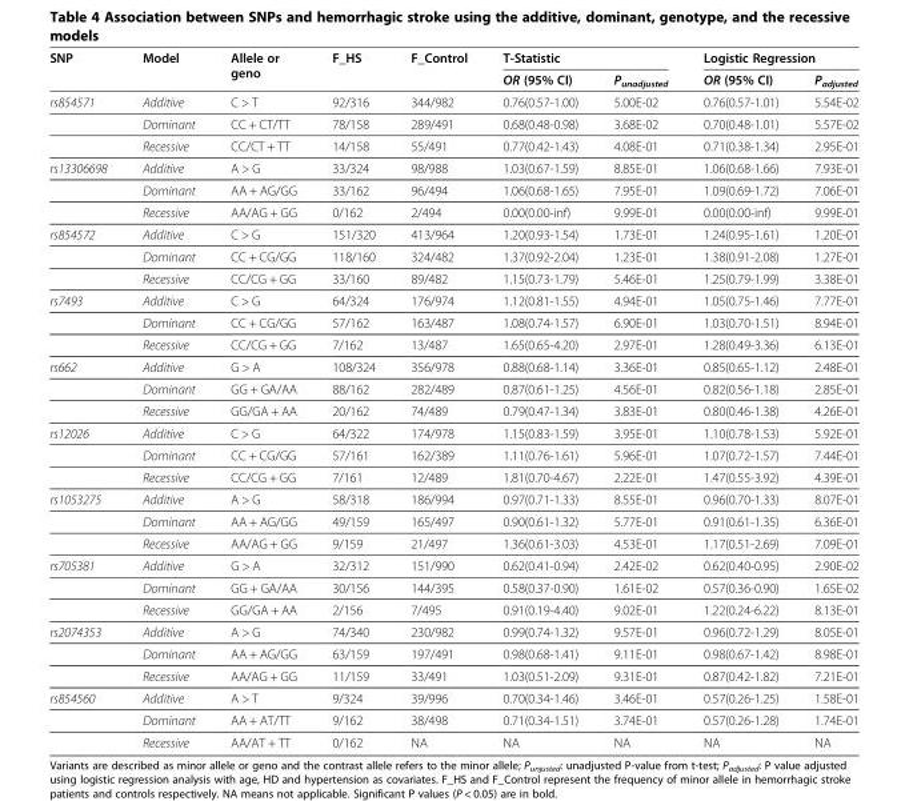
<table><thead><tr><td rowspan="2">SNP</td><td rowspan="2">Model</td><td rowspan="2">Allele or geno</td><td rowspan="2">F_HS</td><td rowspan="2">F_Control</td><td colspan="2">T-Statistic</td><td colspan="2">Logistic Regression</td></tr><tr><td>OR (95% CI)</td><td>P<sub>unadjusted</sub></td><td>OR (95% CI)</td><td>P<sub>adjusted</sub></td></tr></thead><tbody><tr><td rowspan="3">rs854571</td><td>Additive</td><td>C &gt; T</td><td>92/316</td><td>344/982</td><td>0.76(0.57-1.00)</td><td>5.00E-02</td><td>0.76(0.57-1.01)</td><td>5.54E-02</td></tr><tr><td>Dominant</td><td>CC + CT/TT</td><td>78/158</td><td>289/491</td><td>0.68(0.48-0.98)</td><td>3.68E-02</td><td>0.70(0.48-1.01)</td><td>5.57E-02</td></tr><tr><td>Recessive</td><td>CC/CT + TT</td><td>14/158</td><td>55/491</td><td>0.77(0.42-1.43)</td><td>4.08E-01</td><td>0.71(0.38-1.34)</td><td>2.95E-01</td></tr><tr><td rowspan="3">rs13306698</td><td>Additive</td><td>A &gt; G</td><td>33/324</td><td>98/988</td><td>1.03(0.67-1.59)</td><td>8.85E-01</td><td>1.06(0.68-1.66)</td><td>7.93E-01</td></tr><tr><td>Dominant</td><td>AA + AG/GG</td><td>33/162</td><td>96/494</td><td>1.06(0.68-1.65)</td><td>7.95E-01</td><td>1.09(0.69-1.72)</td><td>7.06E-01</td></tr><tr><td>Recessive</td><td>AA/AG + GG</td><td>0/162</td><td>2/494</td><td>0.00(0.00-inf)</td><td>9.99E-01</td><td>0.00(0.00-inf)</td><td>9.99E-01</td></tr><tr><td rowspan="3">rs854572</td><td>Additive</td><td>C &gt; G</td><td>151/320</td><td>413/964</td><td>1.20(0.93-1.54)</td><td>1.73E-01</td><td>1.24(0.95-1.61)</td><td>1.20E-01</td></tr><tr><td>Dominant</td><td>CC + CG/GG</td><td>118/160</td><td>324/482</td><td>1.37(0.92-2.04)</td><td>1.23E-01</td><td>1.38(0.91-2.08)</td><td>1.27E-01</td></tr><tr><td>Recessive</td><td>CC/CG + GG</td><td>33/160</td><td>89/482</td><td>1.15(0.73-1.79)</td><td>5.46E-01</td><td>1.25(0.79-1.99)</td><td>3.38E-01</td></tr><tr><td rowspan="3">rs7493</td><td>Additive</td><td>C &gt; G</td><td>64/324</td><td>176/974</td><td>1.12(0.81-1.55)</td><td>4.94E-01</td><td>1.05(0.75-1.46)</td><td>7.77E-01</td></tr><tr><td>Dominant</td><td>CC + CG/GG</td><td>57/162</td><td>163/487</td><td>1.08(0.74-1.57)</td><td>6.90E-01</td><td>1.03(0.70-1.51)</td><td>8.94E-01</td></tr><tr><td>Recessive</td><td>CC/CG + GG</td><td>7/162</td><td>13/487</td><td>1.65(0.65-4.20)</td><td>2.97E-01</td><td>1.28(0.49-3.36)</td><td>6.13E-01</td></tr><tr><td rowspan="3">rs662</td><td>Additive</td><td>G &gt; A</td><td>108/324</td><td>356/978</td><td>0.88(0.68-1.14)</td><td>3.36E-01</td><td>0.85(0.65-1.12)</td><td>2.48E-01</td></tr><tr><td>Dominant</td><td>GG + GA/AA</td><td>88/162</td><td>282/489</td><td>0.87(0.61-1.25)</td><td>4.56E-01</td><td>0.82(0.56-1.18)</td><td>2.85E-01</td></tr><tr><td>Recessive</td><td>GG/GA + AA</td><td>20/162</td><td>74/489</td><td>0.79(0.47-1.34)</td><td>3.83E-01</td><td>0.80(0.46-1.38)</td><td>4.26E-01</td></tr><tr><td rowspan="3">rs12026</td><td>Additive</td><td>C &gt; G</td><td>64/322</td><td>174/978</td><td>1.15(0.83-1.59)</td><td>3.95E-01</td><td>1.10(0.78-1.53)</td><td>5.92E-01</td></tr><tr><td>Dominant</td><td>CC + CG/GG</td><td>57/161</td><td>162/389</td><td>1.11(0.76-1.61)</td><td>5.96E-01</td><td>1.07(0.72-1.57)</td><td>7.44E-01</td></tr><tr><td>Recessive</td><td>CC/CG + GG</td><td>7/161</td><td>12/489</td><td>1.81(0.70-4.67)</td><td>2.22E-01</td><td>1.47(0.55-3.92)</td><td>4.39E-01</td></tr><tr><td rowspan="3">rs1053275</td><td>Additive</td><td>A &gt; G</td><td>58/318</td><td>186/994</td><td>0.97(0.71-1.33)</td><td>8.55E-01</td><td>0.96(0.70-1.33)</td><td>8.07E-01</td></tr><tr><td>Dominant</td><td>AA + AG/GG</td><td>49/159</td><td>165/497</td><td>0.90(0.61-1.32)</td><td>5.77E-01</td><td>0.91(0.61-1.35)</td><td>6.36E-01</td></tr><tr><td>Recessive</td><td>AA/AG + GG</td><td>9/159</td><td>21/497</td><td>1.36(0.61-3.03)</td><td>4.53E-01</td><td>1.17(0.51-2.69)</td><td>7.09E-01</td></tr><tr><td rowspan="3">rs705381</td><td>Additive</td><td>G &gt; A</td><td>32/312</td><td>151/990</td><td>0.62(0.41-0.94)</td><td>2.42E-02</td><td>0.62(0.40-0.95)</td><td>2.90E-02</td></tr><tr><td>Dominant</td><td>GG + GA/AA</td><td>30/156</td><td>144/395</td><td>0.58(0.37-0.90)</td><td>1.61E-02</td><td>0.57(0.36-0.90)</td><td>1.65E-02</td></tr><tr><td>Recessive</td><td>GG/GA + AA</td><td>2/156</td><td>7/495</td><td>0.91(0.19-4.40)</td><td>9.02E-01</td><td>1.22(0.24-6.22)</td><td>8.13E-01</td></tr><tr><td rowspan="3">rs2074353</td><td>Additive</td><td>A &gt; G</td><td>74/340</td><td>230/982</td><td>0.99(0.74-1.32)</td><td>9.57E-01</td><td>0.96(0.72-1.29)</td><td>8.05E-01</td></tr><tr><td>Dominant</td><td>AA + AG/GG</td><td>63/159</td><td>197/491</td><td>0.98(0.68-1.41)</td><td>9.11E-01</td><td>0.98(0.67-1.42)</td><td>8.98E-01</td></tr><tr><td>Recessive</td><td>AA/AG + GG</td><td>11/159</td><td>33/491</td><td>1.03(0.51-2.09)</td><td>9.31E-01</td><td>0.87(0.42-1.82)</td><td>7.21E-01</td></tr><tr><td rowspan="3">rs854560</td><td>Additive</td><td>A &gt; T</td><td>9/324</td><td>39/996</td><td>0.70(0.34-1.46)</td><td>3.46E-01</td><td>0.57(0.26-1.25)</td><td>1.58E-01</td></tr><tr><td>Dominant</td><td>AA + AT/TT</td><td>9/162</td><td>38/498</td><td>0.71(0.34-1.51)</td><td>3.74E-01</td><td>0.57(0.26-1.28)</td><td>1.74E-01</td></tr><tr><td>Recessive</td><td>AA/AT + TT</td><td>0/162</td><td>NA</td><td>NA</td><td>NA</td><td>NA</td><td>NA</td></tr></tbody></table>